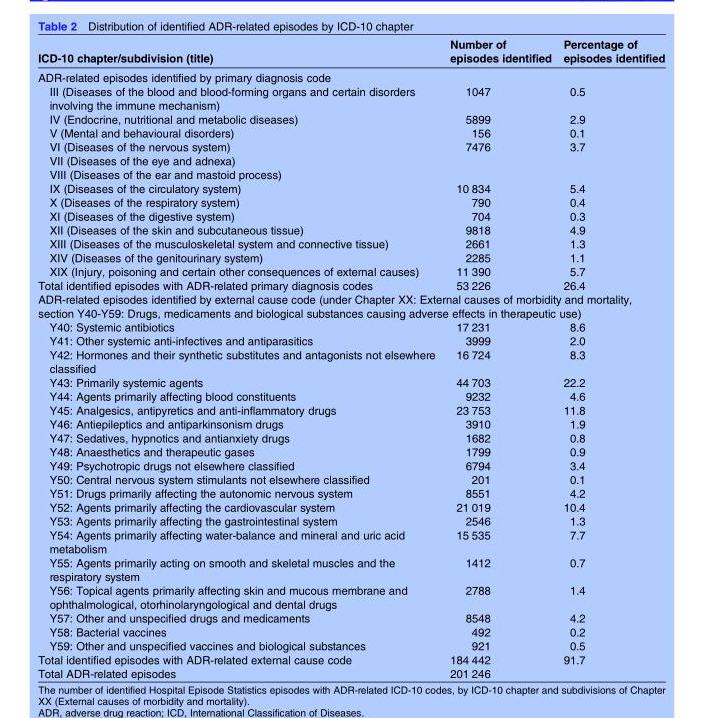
<table><thead><tr><td>ICD-10 chapter/subdivision (title)</td><td>Number of episodes identified</td><td>Percentage of episodes identified</td></tr></thead><tbody><tr><td colspan="3">ADR-related episodes identified by primary diagnosis code</td></tr><tr><td>III (Diseases of the blood and blood-forming organs and certain disorders involving the immune mechanism)</td><td>1047</td><td>0.5</td></tr><tr><td>IV (Endocrine, nutritional and metabolic diseases)</td><td>5899</td><td>2.9</td></tr><tr><td>V (Mental and behavioural disorders)</td><td>156</td><td>0.1</td></tr><tr><td>VI (Diseases of the nervous system)</td><td>7476</td><td>3.7</td></tr><tr><td colspan="3">VII (Diseases of the eye and adnexa)</td></tr><tr><td colspan="3">VIII (Diseases of the ear and mastoid process)</td></tr><tr><td>IX (Diseases of the circulatory system)</td><td>10 834</td><td>5.4</td></tr><tr><td>X (Diseases of the respiratory system)</td><td>790</td><td>0.4</td></tr><tr><td>XI (Diseases of the digestive system)</td><td>704</td><td>0.3</td></tr><tr><td>XII (Diseases of the skin and subcutaneous tissue)</td><td>9818</td><td>4.9</td></tr><tr><td>XIII (Diseases of the musculoskeletal system and connective tissue)</td><td>2661</td><td>1.3</td></tr><tr><td>XIV (Diseases of the genitourinary system)</td><td>2285</td><td>1.1</td></tr><tr><td>XIX (Injury, poisoning and certain other consequences of external causes)</td><td>11 390</td><td>5.7</td></tr><tr><td>Total identified episodes with ADR-related primary diagnosis codes</td><td>53 226</td><td>26.4</td></tr><tr><td colspan="3">ADR-related episodes identified by external cause code (under Chapter XX: External causes of morbidity and mortality, section Y40-Y59: Drugs, medicaments and biological substances causing adverse effects in therapeutic use)</td></tr><tr><td>Y40: Systemic antibiotics</td><td>17 231</td><td>8.6</td></tr><tr><td>Y41: Other systemic anti-infectives and antiparasitics</td><td>3999</td><td>2.0</td></tr><tr><td>Y42: Hormones and their synthetic substitutes and antagonists not elsewhere classified</td><td>16 724</td><td>8.3</td></tr><tr><td>Y43: Primarily systemic agents</td><td>44 703</td><td>22.2</td></tr><tr><td>Y44: Agents primarily affecting blood constituents</td><td>9232</td><td>4.6</td></tr><tr><td>Y45: Analgesics, antipyretics and anti-inflammatory drugs</td><td>23 753</td><td>11.8</td></tr><tr><td>Y46: Antiepileptics and antiparkinsonism drugs</td><td>3910</td><td>1.9</td></tr><tr><td>Y47: Sedatives, hypnotics and antianxiety drugs</td><td>1682</td><td>0.8</td></tr><tr><td>Y48: Anaesthetics and therapeutic gases</td><td>1799</td><td>0.9</td></tr><tr><td>Y49: Psychotropic drugs not elsewhere classified</td><td>6794</td><td>3.4</td></tr><tr><td>Y50: Central nervous system stimulants not elsewhere classified</td><td>201</td><td>0.1</td></tr><tr><td>Y51: Drugs primarily affecting the autonomic nervous system</td><td>8551</td><td>4.2</td></tr><tr><td>Y52: Agents primarily affecting the cardiovascular system</td><td>21 019</td><td>10.4</td></tr><tr><td>Y53: Agents primarily affecting the gastrointestinal system</td><td>2546</td><td>1.3</td></tr><tr><td>Y54: Agents primarily affecting water-balance and mineral and uric acid metabolism</td><td>15 535</td><td>7.7</td></tr><tr><td>Y55: Agents primarily acting on smooth and skeletal muscles and the respiratory system</td><td>1412</td><td>0.7</td></tr><tr><td>Y56: Topical agents primarily affecting skin and mucous membrane and ophthalmological, otorhinolaryngological and dental drugs</td><td>2788</td><td>1.4</td></tr><tr><td>Y57: Other and unspecified drugs and medicaments</td><td>8548</td><td>4.2</td></tr><tr><td>Y58: Bacterial vaccines</td><td>492</td><td>0.2</td></tr><tr><td>Y59: Other and unspecified vaccines and biological substances</td><td>921</td><td>0.5</td></tr><tr><td>Total identified episodes with ADR-related external cause code</td><td>184 442</td><td>91.7</td></tr><tr><td>Total ADR-related episodes</td><td>201 246</td><td></td></tr></tbody></table>